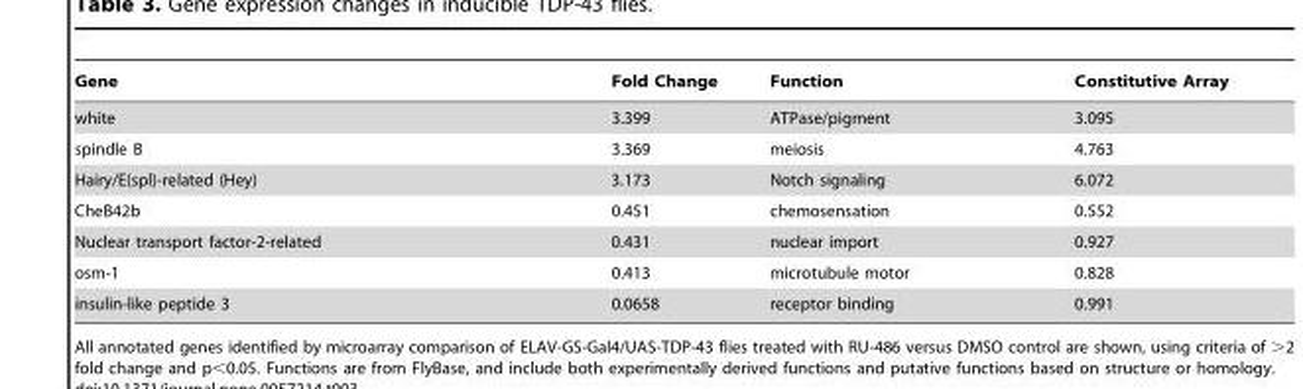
<table><thead><tr><td>Gene</td><td>Fold Change</td><td>Function</td><td>Constitutive Array</td></tr></thead><tbody><tr><td>white</td><td>3.399</td><td>ATPase/pigment</td><td>3.095</td></tr><tr><td>spindle B</td><td>3.369</td><td>meiosis</td><td>4.763</td></tr><tr><td>Hairy/E(spl)-related (Hey)</td><td>3.173</td><td>Notch signaling</td><td>6.072</td></tr><tr><td>CheB42b</td><td>0.451</td><td>chemosensation</td><td>0.552</td></tr><tr><td>Nuclear transport factor-2-related</td><td>0.431</td><td>nuclear import</td><td>0.927</td></tr><tr><td>osm-1</td><td>0.413</td><td>microtubule motor</td><td>0.828</td></tr><tr><td>insulin-like peptide 3</td><td>0.0658</td><td>receptor binding</td><td>0.991</td></tr></tbody></table>